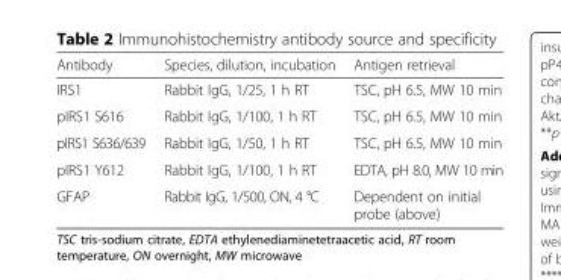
<table><thead><tr><td>Antibody</td><td>Species, dilution, incubation</td><td>Antigen retrieval</td></tr></thead><tbody><tr><td>IRS1</td><td>Rabbit IgG, 1/25, 1 h RT</td><td>TSC, pH 6.5, MW 10 min</td></tr><tr><td>pIRS1 S616</td><td>Rabbit IgG, 1/100, 1 h RT</td><td>TSC, pH 6.5, MW 10 min</td></tr><tr><td>pIRS1 S636/639</td><td>Rabbit IgG, 1/50, 1 h RT</td><td>TSC, pH 6.5, MW 10 min</td></tr><tr><td>pIRS1 Y612</td><td>Rabbit IgG, 1/100, 1 h RT</td><td>EDTA, pH 8.0, MW 10 min</td></tr><tr><td>GFAP</td><td>Rabbit IgG, 1/500, ON, 4 °C</td><td>Dependent on initial probe (above)</td></tr></tbody></table>